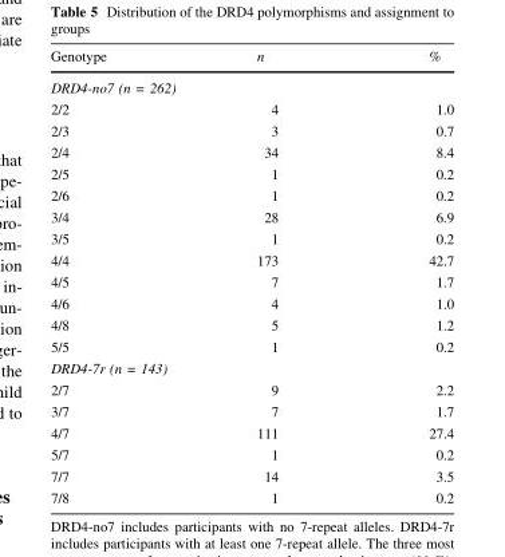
<table><thead><tr><td>Genotype</td><td>n</td><td>%</td></tr></thead><tbody><tr><td colspan="3">DRD4-no7 (n = 262)</td></tr><tr><td>2/2</td><td>4</td><td>1.0</td></tr><tr><td>2/3</td><td>3</td><td>0.7</td></tr><tr><td>2/4</td><td>34</td><td>8.4</td></tr><tr><td>2/5</td><td>1</td><td>0.2</td></tr><tr><td>2/6</td><td>1</td><td>0.2</td></tr><tr><td>3/4</td><td>28</td><td>6.9</td></tr><tr><td>3/5</td><td>1</td><td>0.2</td></tr><tr><td>4/4</td><td>173</td><td>42.7</td></tr><tr><td>4/5</td><td>7</td><td>1.7</td></tr><tr><td>4/6</td><td>4</td><td>1.0</td></tr><tr><td>4/8</td><td>5</td><td>1.2</td></tr><tr><td>5/5</td><td>1</td><td>0.2</td></tr><tr><td colspan="3">DRD4-7r (n = 143)</td></tr><tr><td>2/7</td><td>9</td><td>2.2</td></tr><tr><td>3/7</td><td>7</td><td>1.7</td></tr><tr><td>4/7</td><td>111</td><td>27.4</td></tr><tr><td>5/7</td><td>1</td><td>0.2</td></tr><tr><td>7/7</td><td>14</td><td>3.5</td></tr><tr><td>7/8</td><td>1</td><td>0.2</td></tr></tbody></table>